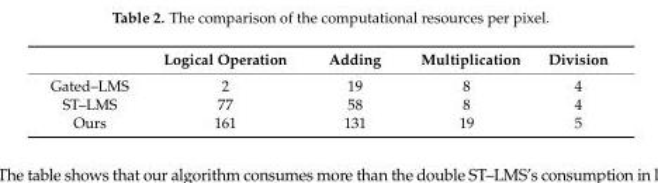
<table><thead><tr><td></td><td>Logical Operation</td><td>Adding</td><td>Multiplication</td><td>Division</td></tr></thead><tbody><tr><td>Gated–LMS</td><td>2</td><td>19</td><td>8</td><td>4</td></tr><tr><td>ST–LMS</td><td>77</td><td>58</td><td>8</td><td>4</td></tr><tr><td>Ours</td><td>161</td><td>131</td><td>19</td><td>5</td></tr></tbody></table>